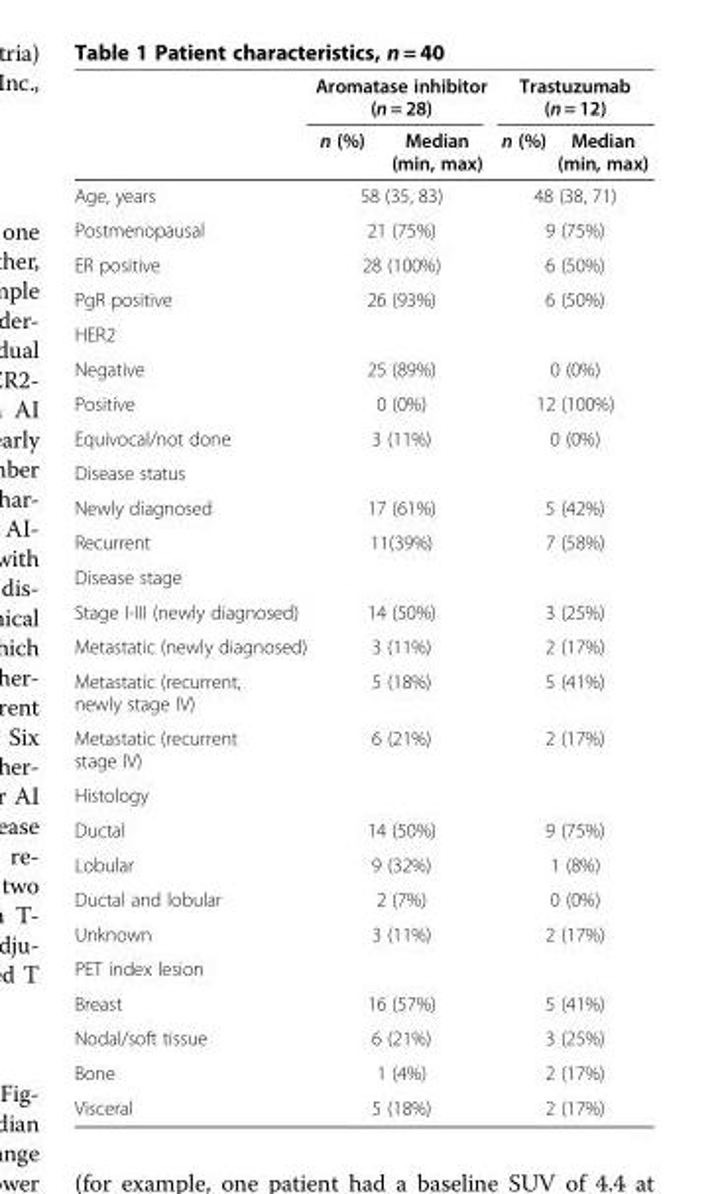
<table><thead><tr><td rowspan="2"></td><td colspan="2">Aromatase inhibitor (n = 28)</td><td colspan="2">Trastuzumab (n = 12)</td></tr><tr><td>n (%)</td><td>Median (min, max)</td><td>n (%)</td><td>Median (min, max)</td></tr></thead><tbody><tr><td>Age, years</td><td colspan="2">58 (35, 83)</td><td colspan="2">48 (38, 71)</td></tr><tr><td>Postmenopausal</td><td colspan="2">21 (75%)</td><td colspan="2">9 (75%)</td></tr><tr><td>ER positive</td><td colspan="2">28 (100%)</td><td colspan="2">6 (50%)</td></tr><tr><td>PgR positive</td><td colspan="2">26 (93%)</td><td colspan="2">6 (50%)</td></tr><tr><td colspan="5">HER2</td></tr><tr><td>Negative</td><td colspan="2">25 (89%)</td><td colspan="2">0 (0%)</td></tr><tr><td>Positive</td><td colspan="2">0 (0%)</td><td colspan="2">12 (100%)</td></tr><tr><td>Equivocal/not done</td><td colspan="2">3 (11%)</td><td colspan="2">0 (0%)</td></tr><tr><td colspan="5">Disease status</td></tr><tr><td>Newly diagnosed</td><td colspan="2">17 (61%)</td><td colspan="2">5 (42%)</td></tr><tr><td>Recurrent</td><td colspan="2">11(39%)</td><td colspan="2">7 (58%)</td></tr><tr><td colspan="5">Disease stage</td></tr><tr><td>Stage I-III (newly diagnosed)</td><td colspan="2">14 (50%)</td><td colspan="2">3 (25%)</td></tr><tr><td>Metastatic (newly diagnosed)</td><td colspan="2">3 (11%)</td><td colspan="2">2 (17%)</td></tr><tr><td>Metastatic (recurrent, newly stage IV)</td><td colspan="2">5 (18%)</td><td colspan="2">5 (41%)</td></tr><tr><td>Metastatic (recurrent stage IV)</td><td colspan="2">6 (21%)</td><td colspan="2">2 (17%)</td></tr><tr><td colspan="5">Histology</td></tr><tr><td>Ductal</td><td colspan="2">14 (50%)</td><td colspan="2">9 (75%)</td></tr><tr><td>Lobular</td><td colspan="2">9 (32%)</td><td colspan="2">1 (8%)</td></tr><tr><td>Ductal and lobular</td><td colspan="2">2 (7%)</td><td colspan="2">0 (0%)</td></tr><tr><td>Unknown</td><td colspan="2">3 (11%)</td><td colspan="2">2 (17%)</td></tr><tr><td colspan="5">PET index lesion</td></tr><tr><td>Breast</td><td colspan="2">16 (57%)</td><td colspan="2">5 (41%)</td></tr><tr><td>Nodal/soft tissue</td><td colspan="2">6 (21%)</td><td colspan="2">3 (25%)</td></tr><tr><td>Bone</td><td colspan="2">1 (4%)</td><td colspan="2">2 (17%)</td></tr><tr><td>Visceral</td><td colspan="2">5 (18%)</td><td colspan="2">2 (17%)</td></tr></tbody></table>